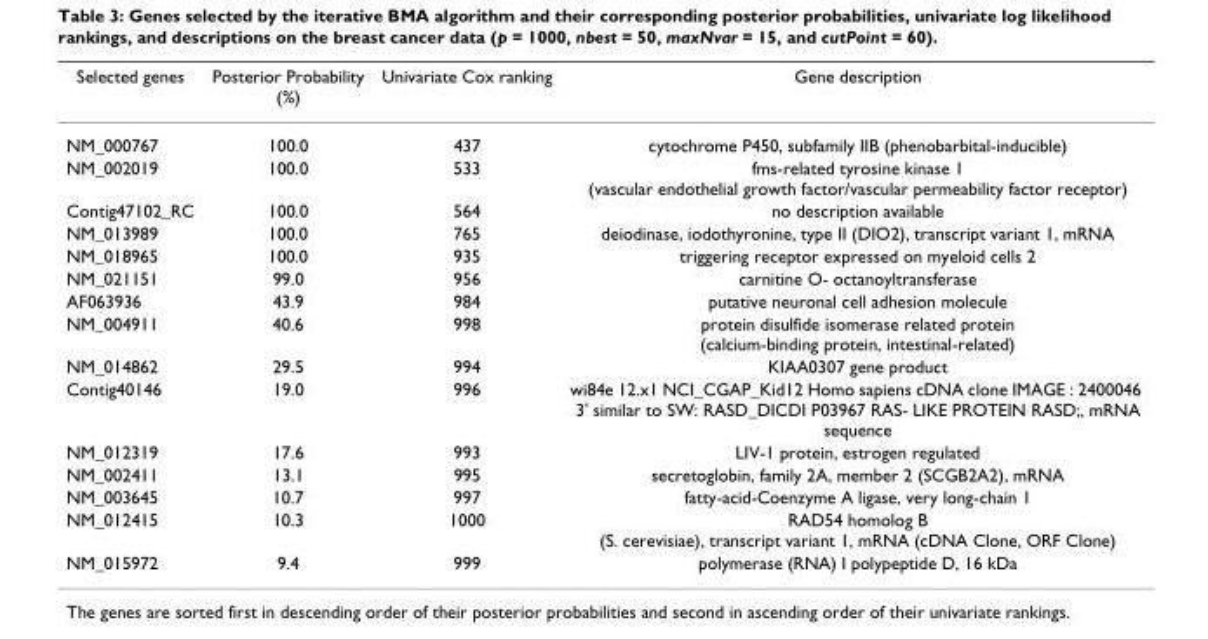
<table><thead><tr><td>Selected genes</td><td>Posterior Probability (%)</td><td>Univariate Cox ranking</td><td>Gene description</td></tr></thead><tbody><tr><td>NM_000767</td><td>100.0</td><td>437</td><td>cytochrome P450, subfamily IIB (phenobarbital-inducible)</td></tr><tr><td>NM_002019</td><td>100.0</td><td>533</td><td>fms-related tyrosine kinase 1 (vascular endothelial growth factor/vascular permeability factor receptor)</td></tr><tr><td>Contig47102_RC</td><td>100.0</td><td>564</td><td>no description available</td></tr><tr><td>NM_013989</td><td>100.0</td><td>765</td><td>deiodinase, iodothyronine, type II (DIO2), transcript variant 1, mRNA</td></tr><tr><td>NM_018965</td><td>100.0</td><td>935</td><td>triggering receptor expressed on myeloid cells 2</td></tr><tr><td>NM_021151</td><td>99.0</td><td>956</td><td>carnitine O- octanoyltransferase</td></tr><tr><td>AF063936</td><td>43.9</td><td>984</td><td>putative neuronal cell adhesion molecule</td></tr><tr><td>NM_004911</td><td>40.6</td><td>998</td><td>protein disulfide isomerase related protein (calcium-binding protein, intestinal-related)</td></tr><tr><td>NM_014862</td><td>29.5</td><td>994</td><td>KIAA0307 gene product</td></tr><tr><td>Contig40146</td><td>19.0</td><td>996</td><td>wi84e 12.x1 NCI_CGAP_Kid12 Homo sapiens cDNA clone IMAGE : 2400046 3&#x27; similar to SW: RASD_DICDI P03967 RAS- LIKE PROTEIN RASD;, mRNA sequence</td></tr><tr><td>NM_012319</td><td>17.6</td><td>993</td><td>LIV-1 protein, estrogen regulated</td></tr><tr><td>NM_002411</td><td>13.1</td><td>995</td><td>secretoglobin, family 2A, member 2 (SCGB2A2), mRNA</td></tr><tr><td>NM_003645</td><td>10.7</td><td>997</td><td>fatty-acid-Coenzyme A ligase, very long-chain 1</td></tr><tr><td>NM_012415</td><td>10.3</td><td>1000</td><td>RAD54 homolog B (S. cerevisiae), transcript variant 1, mRNA (cDNA Clone, ORF Clone)</td></tr><tr><td>NM_015972</td><td>9.4</td><td>999</td><td>polymerase (RNA) I polypeptide D, 16 kDa</td></tr></tbody></table>